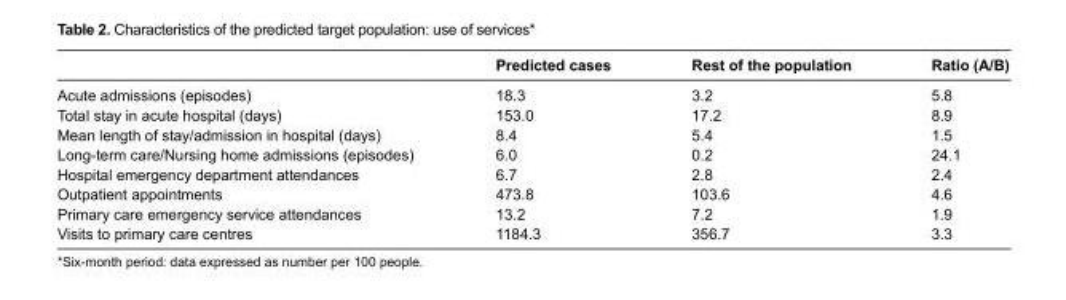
<table><thead><tr><td></td><td>Predicted cases</td><td>Rest of the population</td><td>Ratio (A/B)</td></tr></thead><tbody><tr><td>Acute admissions (episodes)</td><td>18.3</td><td>3.2</td><td>5.8</td></tr><tr><td>Total stay in acute hospital (days)</td><td>153.0</td><td>17.2</td><td>8.9</td></tr><tr><td>Mean length of stay/admission in hospital (days)</td><td>8.4</td><td>5.4</td><td>1.5</td></tr><tr><td>Long-term care/Nursing home admissions (episodes)</td><td>6.0</td><td>0.2</td><td>24.1</td></tr><tr><td>Hospital emergency department attendances</td><td>6.7</td><td>2.8</td><td>2.4</td></tr><tr><td>Outpatient appointments</td><td>473.8</td><td>103.6</td><td>4.6</td></tr><tr><td>Primary care emergency service attendances</td><td>13.2</td><td>7.2</td><td>1.9</td></tr><tr><td>Visits to primary care centres</td><td>1184.3</td><td>356.7</td><td>3.3</td></tr></tbody></table>